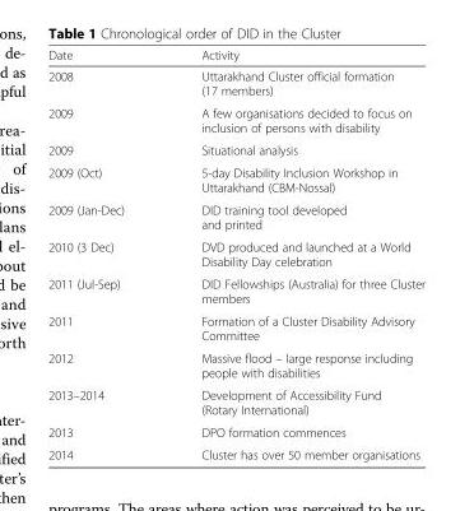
<table><thead><tr><td>Date</td><td>Activity</td></tr></thead><tbody><tr><td>2008</td><td>Uttarakhand Cluster official formation (17 members)</td></tr><tr><td>2009</td><td>A few organisations decided to focus on inclusion of persons with disability</td></tr><tr><td>2009</td><td>Situational analysis</td></tr><tr><td>2009 (Oct)</td><td>5-day Disability Inclusion Workshop in Uttarakhand (CBM-Nossal)</td></tr><tr><td>2009 (Jan-Dec)</td><td>DID training tool developed and printed</td></tr><tr><td>2010 (3 Dec)</td><td>DVD produced and launched at a World Disability Day celebration</td></tr><tr><td>2011 (Jul-Sep)</td><td>DID Fellowships (Australia) for three Cluster members</td></tr><tr><td>2011</td><td>Formation of a Cluster Disability Advisory Committee</td></tr><tr><td>2012</td><td>Massive flood – large response including people with disabilities</td></tr><tr><td>2013–2014</td><td>Development of Accessibility Fund (Rotary International)</td></tr><tr><td>2013</td><td>DPO formation commences</td></tr><tr><td>2014</td><td>Cluster has over 50 member organisations</td></tr></tbody></table>